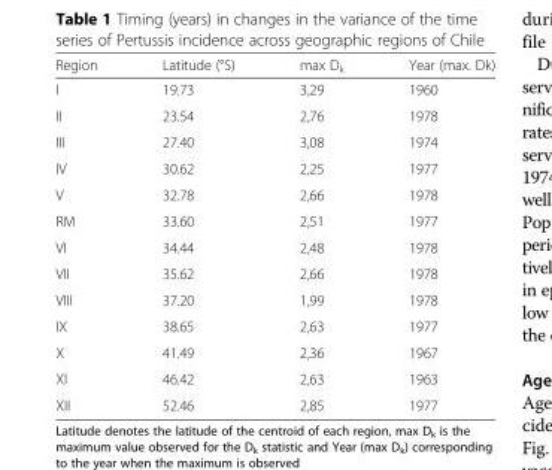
<table><thead><tr><td>Region</td><td>Latitude (°S)</td><td>max D<sub>k</sub></td><td>Year (max. Dk)</td></tr></thead><tbody><tr><td>I</td><td>19.73</td><td>3,29</td><td>1960</td></tr><tr><td>II</td><td>23.54</td><td>2,76</td><td>1978</td></tr><tr><td>III</td><td>27.40</td><td>3,08</td><td>1974</td></tr><tr><td>IV</td><td>30.62</td><td>2,25</td><td>1977</td></tr><tr><td>V</td><td>32.78</td><td>2,66</td><td>1978</td></tr><tr><td>RM</td><td>33.60</td><td>2,51</td><td>1977</td></tr><tr><td>VI</td><td>34.44</td><td>2,48</td><td>1978</td></tr><tr><td>VII</td><td>35.62</td><td>2,66</td><td>1978</td></tr><tr><td>VIII</td><td>37.20</td><td>1,99</td><td>1978</td></tr><tr><td>IX</td><td>38.65</td><td>2,63</td><td>1977</td></tr><tr><td>X</td><td>41.49</td><td>2,36</td><td>1967</td></tr><tr><td>XI</td><td>46.42</td><td>2,63</td><td>1963</td></tr><tr><td>XII</td><td>52.46</td><td>2,85</td><td>1977</td></tr></tbody></table>